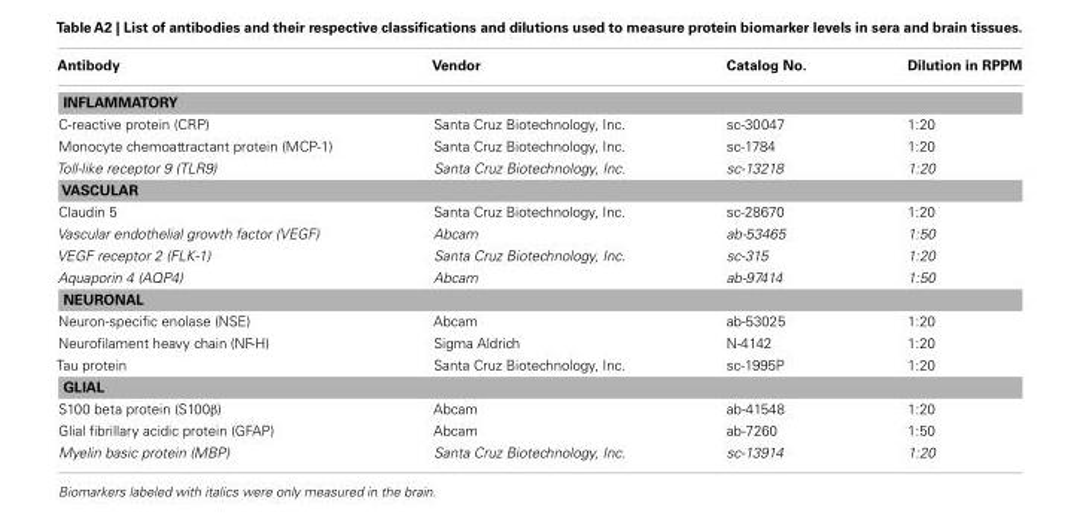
<table><thead><tr><td>Antibody</td><td>Vendor</td><td>Catalog No.</td><td>Dilution in RPPM</td></tr></thead><tbody><tr><td colspan="4">INFLAMMATORY</td></tr><tr><td>C-reactive protein (CRP)</td><td>Santa Cruz Biotechnology, Inc.</td><td>sc-30047</td><td>1:20</td></tr><tr><td>Monocyte chemoattractant protein (MCP-1)</td><td>Santa Cruz Biotechnology, Inc.</td><td>sc-1784</td><td>1:20</td></tr><tr><td>Toll-like receptor 9 (TLR9)</td><td>Santa Cruz Biotechnology, Inc.</td><td>sc-13218</td><td>1:20</td></tr><tr><td colspan="4">VASCULAR</td></tr><tr><td>Claudin 5</td><td>Santa Cruz Biotechnology, Inc.</td><td>sc-28670</td><td>1:20</td></tr><tr><td>Vascular endothelial growth factor (VEGF)</td><td>Abcam</td><td>ab-53465</td><td>1:50</td></tr><tr><td>VEGF receptor 2 (FLK-1)</td><td>Santa Cruz Biotechnology, Inc.</td><td>sc-315</td><td>1:20</td></tr><tr><td>Aquaporin 4 (AQP4)</td><td>Abcam</td><td>ab-97414</td><td>1:50</td></tr><tr><td colspan="4">NEURONAL</td></tr><tr><td>Neuron-specific enolase (NSE)</td><td>Abcam</td><td>ab-53025</td><td>1:20</td></tr><tr><td>Neurofilament heavy chain (NF-H)</td><td>Sigma Aldrich</td><td>N-4142</td><td>1:20</td></tr><tr><td>Tau protein</td><td>Santa Cruz Biotechnology, Inc.</td><td>sc-1995P</td><td>1:20</td></tr><tr><td colspan="4">GLIAL</td></tr><tr><td>S100 beta protein (S100β)</td><td>Abcam</td><td>ab-41548</td><td>1:20</td></tr><tr><td>Glial fibrillary acidic protein (GFAP)</td><td>Abcam</td><td>ab-7260</td><td>1:50</td></tr><tr><td>Myelin basic protein (MBP)</td><td>Santa Cruz Biotechnology, Inc.</td><td>sc-13914</td><td>1:20</td></tr></tbody></table>